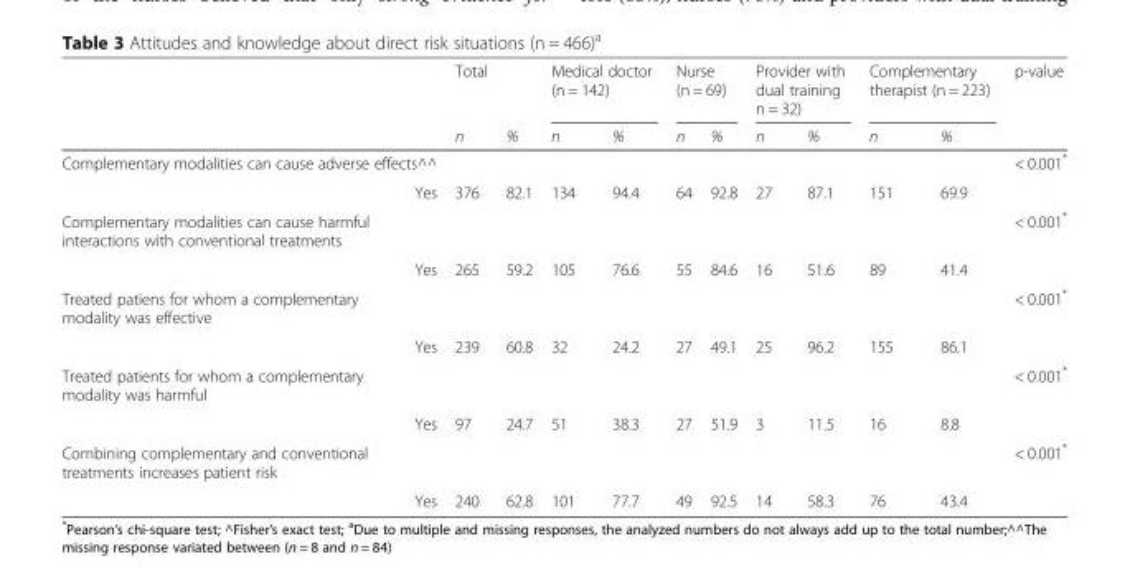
<table><thead><tr><td rowspan="2"></td><td rowspan="2">Total n</td><td rowspan="2">%</td><td colspan="2">Medical doctor (n = 142)</td><td colspan="2">Nurse (n = 69)</td><td colspan="2">Provider with dual training n = 32)</td><td colspan="2">Complementary therapist (n = 223)</td><td rowspan="2">p-value</td></tr><tr><td>n</td><td>%</td><td>n</td><td>%</td><td>n</td><td>%</td><td>n</td><td>%</td></tr></thead><tbody><tr><td>Complementary modalities can cause adverse effects^^</td><td></td><td></td><td></td><td></td><td></td><td></td><td></td><td></td><td></td><td></td><td>&lt; 0.001*</td></tr><tr><td>Yes</td><td>376</td><td>82.1</td><td>134</td><td>94.4</td><td>64</td><td>92.8</td><td>27</td><td>87.1</td><td>151</td><td>69.9</td><td></td></tr><tr><td>Complementary modalities can cause harmful interactions with conventional treatments</td><td></td><td></td><td></td><td></td><td></td><td></td><td></td><td></td><td></td><td></td><td>&lt; 0.001*</td></tr><tr><td>Yes</td><td>265</td><td>59.2</td><td>105</td><td>76.6</td><td>55</td><td>84.6</td><td>16</td><td>51.6</td><td>89</td><td>41.4</td><td></td></tr><tr><td>Treated patiens for whom a complementary modality was effective</td><td></td><td></td><td></td><td></td><td></td><td></td><td></td><td></td><td></td><td></td><td>&lt; 0.001*</td></tr><tr><td>Yes</td><td>239</td><td>60.8</td><td>32</td><td>24.2</td><td>27</td><td>49.1</td><td>25</td><td>96.2</td><td>155</td><td>86.1</td><td></td></tr><tr><td>Treated patients for whom a complementary modality was harmful</td><td></td><td></td><td></td><td></td><td></td><td></td><td></td><td></td><td></td><td></td><td>&lt; 0.001*</td></tr><tr><td>Yes</td><td>97</td><td>24.7</td><td>51</td><td>38.3</td><td>27</td><td>51.9</td><td>3</td><td>11.5</td><td>16</td><td>8.8</td><td></td></tr><tr><td>Combining complementary and conventional treatments increases patient risk</td><td></td><td></td><td></td><td></td><td></td><td></td><td></td><td></td><td></td><td></td><td>&lt; 0.001*</td></tr><tr><td>Yes</td><td>240</td><td>62.8</td><td>101</td><td>77.7</td><td>49</td><td>92.5</td><td>14</td><td>58.3</td><td>76</td><td>43.4</td><td></td></tr></tbody></table>